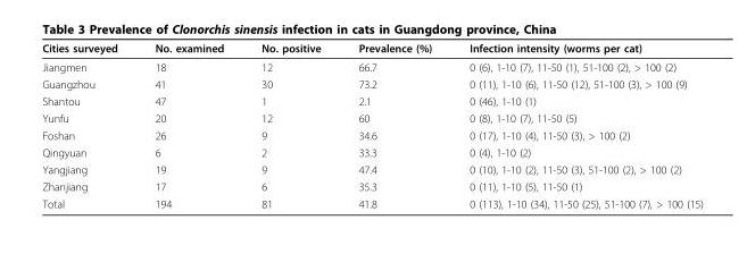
<table><thead><tr><td>Cities surveyed</td><td>No. examined</td><td>No. positive</td><td>Prevalence (%)</td><td>Infection intensity (worms per cat)</td></tr></thead><tbody><tr><td>Jiangmen</td><td>18</td><td>12</td><td>66.7</td><td>0 (6), 1-10 (7), 11-50 (1), 51-100 (2), &gt; 100 (2)</td></tr><tr><td>Guangzhou</td><td>41</td><td>30</td><td>73.2</td><td>0 (11), 1-10 (6), 11-50 (12), 51-100 (3), &gt; 100 (9)</td></tr><tr><td>Shantou</td><td>47</td><td>1</td><td>2.1</td><td>0 (46), 1-10 (1)</td></tr><tr><td>Yunfu</td><td>20</td><td>12</td><td>60</td><td>0 (8), 1-10 (7), 11-50 (5)</td></tr><tr><td>Foshan</td><td>26</td><td>9</td><td>34.6</td><td>0 (17), 1-10 (4), 11-50 (3), &gt; 100 (2)</td></tr><tr><td>Qingyuan</td><td>6</td><td>2</td><td>33.3</td><td>0 (4), 1-10 (2)</td></tr><tr><td>Yangjiang</td><td>19</td><td>9</td><td>47.4</td><td>0 (10), 1-10 (2), 11-50 (3), 51-100 (2), &gt; 100 (2)</td></tr><tr><td>Zhanjiang</td><td>17</td><td>6</td><td>35.3</td><td>0 (11), 1-10 (5), 11-50 (1)</td></tr><tr><td>Total</td><td>194</td><td>81</td><td>41.8</td><td>0 (113), 1-10 (34), 11-50 (25), 51-100 (7), &gt; 100 (15)</td></tr></tbody></table>